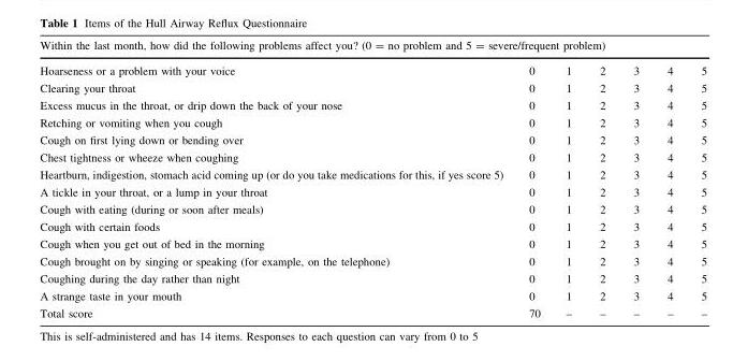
<table><thead><tr><td colspan="7">Within the last month, how did the following problems affect you? (0 = no problem and 5 = severe/frequent problem)</td></tr><tr><td>Hoarseness or a problem with your voice</td><td>0</td><td>1</td><td>2</td><td>3</td><td>4</td><td>5</td></tr></thead><tbody><tr><td>Clearing your throat</td><td>0</td><td>1</td><td>2</td><td>3</td><td>4</td><td>5</td></tr><tr><td>Excess mucus in the throat, or drip down the back of your nose</td><td>0</td><td>1</td><td>2</td><td>3</td><td>4</td><td>5</td></tr><tr><td>Retching or vomiting when you cough</td><td>0</td><td>1</td><td>2</td><td>3</td><td>4</td><td>5</td></tr><tr><td>Cough on first lying down or bending over</td><td>0</td><td>1</td><td>2</td><td>3</td><td>4</td><td>5</td></tr><tr><td>Chest tightness or wheeze when coughing</td><td>0</td><td>1</td><td>2</td><td>3</td><td>4</td><td>5</td></tr><tr><td>Heartburn, indigestion, stomach acid coming up (or do you take medications for this, if yes score 5)</td><td>0</td><td>1</td><td>2</td><td>3</td><td>4</td><td>5</td></tr><tr><td>A tickle in your throat, or a lump in your throat</td><td>0</td><td>1</td><td>2</td><td>3</td><td>4</td><td>5</td></tr><tr><td>Cough with eating (during or soon after meals)</td><td>0</td><td>1</td><td>2</td><td>3</td><td>4</td><td>5</td></tr><tr><td>Cough with certain foods</td><td>0</td><td>1</td><td>2</td><td>3</td><td>4</td><td>5</td></tr><tr><td>Cough when you get out of bed in the morning</td><td>0</td><td>1</td><td>2</td><td>3</td><td>4</td><td>5</td></tr><tr><td>Cough brought on by singing or speaking (for example, on the telephone)</td><td>0</td><td>1</td><td>2</td><td>3</td><td>4</td><td>5</td></tr><tr><td>Coughing during the day rather than night</td><td>0</td><td>1</td><td>2</td><td>3</td><td>4</td><td>5</td></tr><tr><td>A strange taste in your mouth</td><td>0</td><td>1</td><td>2</td><td>3</td><td>4</td><td>5</td></tr><tr><td>Total score</td><td>70</td><td>–</td><td>–</td><td>–</td><td>–</td><td>–</td></tr></tbody></table>